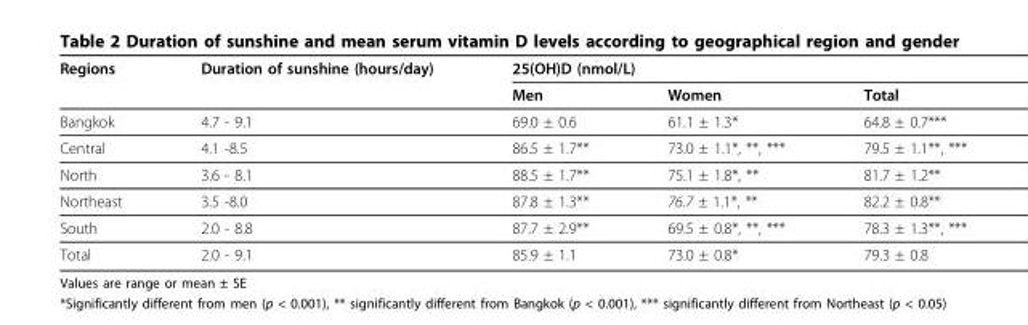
<table><thead><tr><td rowspan="2">Regions</td><td rowspan="2">Duration of sunshine (hours/day)</td><td colspan="2">25(OH)D (nmol/L)</td><td rowspan="2">Total</td></tr><tr><td>Men</td><td>Women</td></tr></thead><tbody><tr><td>Bangkok</td><td>4.7 - 9.1</td><td>69.0 ± 0.6</td><td>61.1 ± 1.3*</td><td>64.8 ± 0.7***</td></tr><tr><td>Central</td><td>4.1 -8.5</td><td>86.5 ± 1.7**</td><td>73.0 ± 1.1*, **, ***</td><td>79.5 ± 1.1**, ***</td></tr><tr><td>North</td><td>3.6 - 8.1</td><td>88.5 ± 1.7**</td><td>75.1 ± 1.8*, **</td><td>81.7 ± 1.2**</td></tr><tr><td>Northeast</td><td>3.5 -8.0</td><td>87.8 ± 1.3**</td><td>76.7 ± 1.1*, **</td><td>82.2 ± 0.8**</td></tr><tr><td>South</td><td>2.0 - 8.8</td><td>87.7 ± 2.9**</td><td>69.5 ± 0.8*, **, ***</td><td>78.3 ± 1.3**, ***</td></tr><tr><td>Total</td><td>2.0 - 9.1</td><td>85.9 ± 1.1</td><td>73.0 ± 0.8*</td><td>79.3 ± 0.8</td></tr></tbody></table>